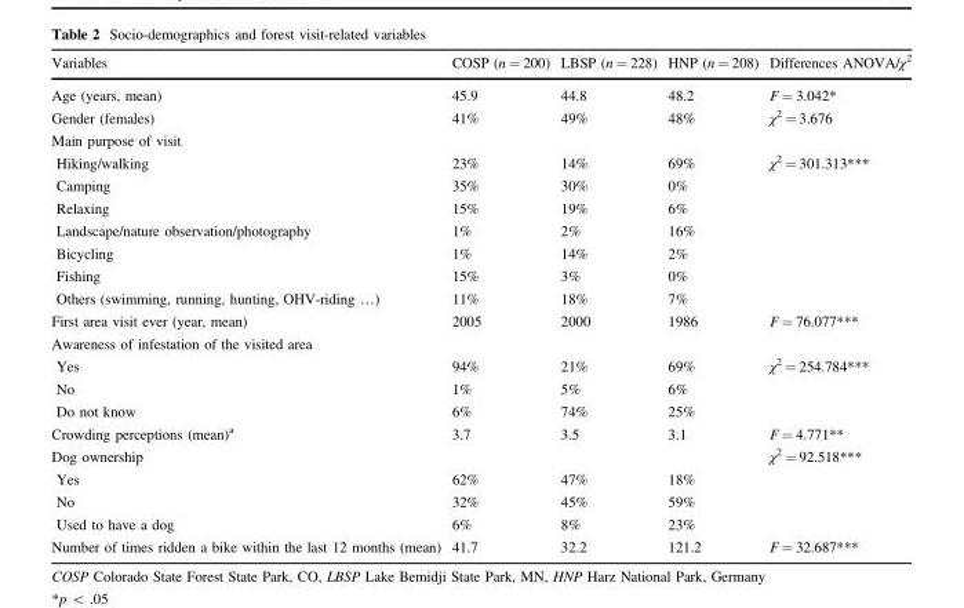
<table><thead><tr><td>Variables</td><td>COSP (n = 200)</td><td>LBSP (n = 228)</td><td>HNP (n = 208)</td><td>Differences ANOVA/χ<sup>2</sup></td></tr></thead><tbody><tr><td>Age (years, mean)</td><td>45.9</td><td>44.8</td><td>48.2</td><td>F = 3.042*</td></tr><tr><td>Gender (females)</td><td>41%</td><td>49%</td><td>48%</td><td>χ<sup>2</sup> = 3.676</td></tr><tr><td colspan="5">Main purpose of visit</td></tr><tr><td>Hiking/walking</td><td>23%</td><td>14%</td><td>69%</td><td>χ<sup>2</sup> = 301.313***</td></tr><tr><td>Camping</td><td>35%</td><td>30%</td><td>0%</td><td></td></tr><tr><td>Relaxing</td><td>15%</td><td>19%</td><td>6%</td><td></td></tr><tr><td>Landscape/nature observation/photography</td><td>1%</td><td>2%</td><td>16%</td><td></td></tr><tr><td>Bicycling</td><td>1%</td><td>14%</td><td>2%</td><td></td></tr><tr><td>Fishing</td><td>15%</td><td>3%</td><td>0%</td><td></td></tr><tr><td>Others (swimming, running, hunting, OHV-riding …)</td><td>11%</td><td>18%</td><td>7%</td><td></td></tr><tr><td>First area visit ever (year, mean)</td><td>2005</td><td>2000</td><td>1986</td><td>F = 76.077***</td></tr><tr><td colspan="5">Awareness of infestation of the visited area</td></tr><tr><td>Yes</td><td>94%</td><td>21%</td><td>69%</td><td rowspan="3">χ<sup>2</sup> = 254.784***</td></tr><tr><td>No</td><td>1%</td><td>5%</td><td>6%</td></tr><tr><td>Do not know</td><td>6%</td><td>74%</td><td>25%</td></tr><tr><td>Crowding perceptions (mean)<sup>a</sup></td><td>3.7</td><td>3.5</td><td>3.1</td><td>F = 4.771**</td></tr><tr><td colspan="4">Dog ownership</td><td rowspan="4">χ<sup>2</sup> = 92.518***</td></tr><tr><td>Yes</td><td>62%</td><td>47%</td><td>18%</td></tr><tr><td>No</td><td>32%</td><td>45%</td><td>59%</td></tr><tr><td>Used to have a dog</td><td>6%</td><td>8%</td><td>23%</td></tr><tr><td>Number of times ridden a bike within the last 12 months (mean)</td><td>41.7</td><td>32.2</td><td>121.2</td><td>F = 32.687***</td></tr></tbody></table>